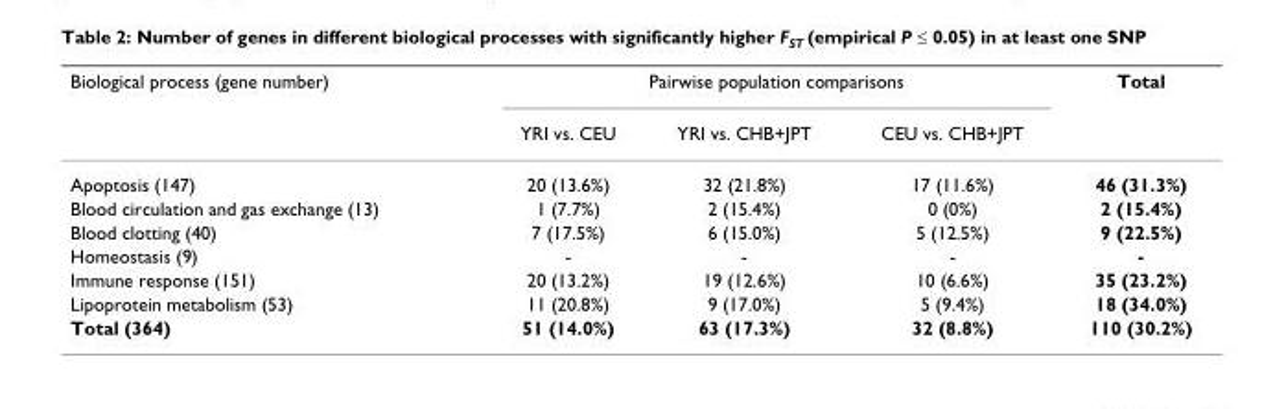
<table><thead><tr><td rowspan="2">Biological process (gene number)</td><td colspan="3">Pairwise population comparisons</td><td rowspan="2">Total</td></tr><tr><td>YRI vs. CEU</td><td>YRI vs. CHB+JPT</td><td>CEU vs. CHB+JPT</td></tr></thead><tbody><tr><td>Apoptosis (147)</td><td>20 (13.6%)</td><td>32 (21.8%)</td><td>17 (11.6%)</td><td>46 (31.3%)</td></tr><tr><td>Blood circulation and gas exchange (13)</td><td>1 (7.7%)</td><td>2 (15.4%)</td><td>0 (0%)</td><td>2 (15.4%)</td></tr><tr><td>Blood clotting (40)</td><td>7 (17.5%)</td><td>6 (15.0%)</td><td>5 (12.5%)</td><td>9 (22.5%)</td></tr><tr><td>Homeostasis (9)</td><td>-</td><td>-</td><td>-</td><td>-</td></tr><tr><td>Immune response (151)</td><td>20 (13.2%)</td><td>19 (12.6%)</td><td>10 (6.6%)</td><td>35 (23.2%)</td></tr><tr><td>Lipoprotein metabolism (53)</td><td>11 (20.8%)</td><td>9 (17.0%)</td><td>5 (9.4%)</td><td>18 (34.0%)</td></tr><tr><td>Total (364)</td><td>51 (14.0%)</td><td>63 (17.3%)</td><td>32 (8.8%)</td><td>110 (30.2%)</td></tr></tbody></table>